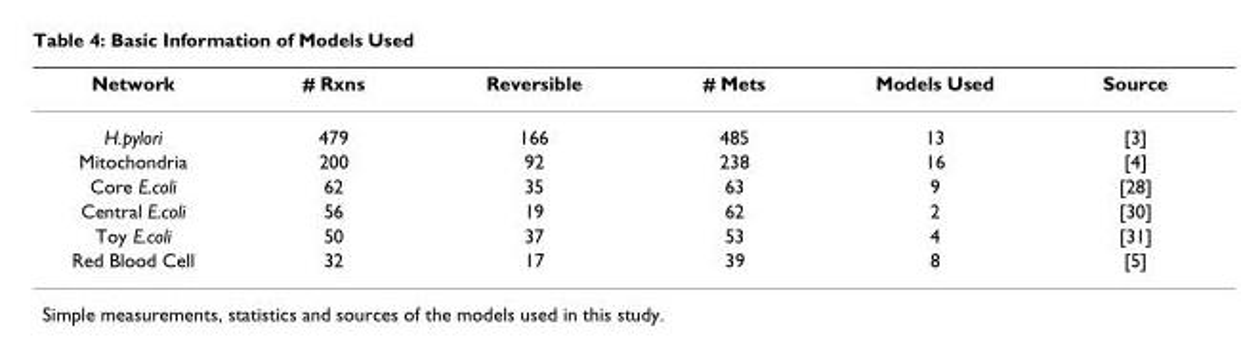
<table><thead><tr><td>Network</td><td># Rxns</td><td>Reversible</td><td># Mets</td><td>Models Used</td><td>Source</td></tr></thead><tbody><tr><td>H.pylori</td><td>479</td><td>166</td><td>485</td><td>13</td><td>[3]</td></tr><tr><td>Mitochondria</td><td>200</td><td>92</td><td>238</td><td>16</td><td>[4]</td></tr><tr><td>Core E.coli</td><td>62</td><td>35</td><td>63</td><td>9</td><td>[28]</td></tr><tr><td>Central E.coli</td><td>56</td><td>19</td><td>62</td><td>2</td><td>[30]</td></tr><tr><td>Toy E.coli</td><td>50</td><td>37</td><td>53</td><td>4</td><td>[31]</td></tr><tr><td>Red Blood Cell</td><td>32</td><td>17</td><td>39</td><td>8</td><td>[5]</td></tr></tbody></table>